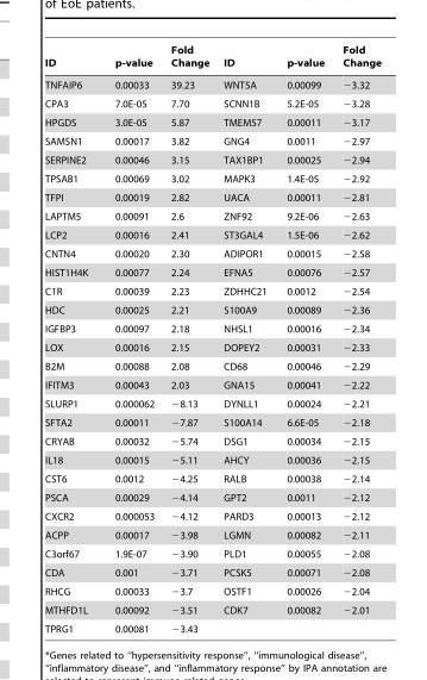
<table><thead><tr><td>ID</td><td>p-value</td><td>Fold Change</td><td>ID</td><td>p-value</td><td>Fold Change</td></tr></thead><tbody><tr><td>TNFAIP6</td><td>0.00033</td><td>39.23</td><td>WNT5A</td><td>0.00099</td><td>−3.32</td></tr><tr><td>CPA3</td><td>7.0E-05</td><td>7.70</td><td>SCNN1B</td><td>5.2E-05</td><td>−3.28</td></tr><tr><td>HPGDS</td><td>3.0E-05</td><td>5.87</td><td>TMEM57</td><td>0.00011</td><td>−3.17</td></tr><tr><td>SAMSN1</td><td>0.00017</td><td>3.82</td><td>GNG4</td><td>0.0011</td><td>−2.97</td></tr><tr><td>SERPINE2</td><td>0.00046</td><td>3.15</td><td>TAX1BP1</td><td>0.00025</td><td>−2.94</td></tr><tr><td>TPSAB1</td><td>0.00069</td><td>3.02</td><td>MAPK3</td><td>1.4E-05</td><td>−2.92</td></tr><tr><td>TFPI</td><td>0.00019</td><td>2.82</td><td>UACA</td><td>0.00011</td><td>−2.81</td></tr><tr><td>LAPTM5</td><td>0.00091</td><td>2.6</td><td>ZNF92</td><td>9.2E-06</td><td>−2.63</td></tr><tr><td>LCP2</td><td>0.00016</td><td>2.41</td><td>ST3GAL4</td><td>1.5E-06</td><td>−2.62</td></tr><tr><td>CNTN4</td><td>0.00020</td><td>2.30</td><td>ADIPOR1</td><td>0.00015</td><td>−2.58</td></tr><tr><td>HIST1H4K</td><td>0.00077</td><td>2.24</td><td>EFNA5</td><td>0.00076</td><td>−2.57</td></tr><tr><td>C1R</td><td>0.00039</td><td>2.23</td><td>ZDHHC21</td><td>0.0012</td><td>−2.54</td></tr><tr><td>HDC</td><td>0.00025</td><td>2.21</td><td>S100A9</td><td>0.00089</td><td>−2.36</td></tr><tr><td>IGFBP3</td><td>0.00097</td><td>2.18</td><td>NHSL1</td><td>0.00016</td><td>−2.34</td></tr><tr><td>LOX</td><td>0.00016</td><td>2.15</td><td>DOPEY2</td><td>0.00031</td><td>−2.33</td></tr><tr><td>B2M</td><td>0.00088</td><td>2.08</td><td>CD68</td><td>0.00046</td><td>−2.29</td></tr><tr><td>IFITM3</td><td>0.00043</td><td>2.03</td><td>GNA15</td><td>0.00041</td><td>−2.22</td></tr><tr><td>SLURP1</td><td>0.000062</td><td>−8.13</td><td>DYNLL1</td><td>0.00024</td><td>−2.21</td></tr><tr><td>SFTA2</td><td>0.00011</td><td>−7.87</td><td>S100A14</td><td>6.6E-05</td><td>−2.18</td></tr><tr><td>CRYAB</td><td>0.00032</td><td>−5.74</td><td>DSG1</td><td>0.00034</td><td>−2.15</td></tr><tr><td>IL18</td><td>0.00015</td><td>−5.11</td><td>AHCY</td><td>0.00036</td><td>−2.15</td></tr><tr><td>CST6</td><td>0.0012</td><td>−4.25</td><td>RALB</td><td>0.00038</td><td>−2.14</td></tr><tr><td>PSCA</td><td>0.00029</td><td>−4.14</td><td>GPT2</td><td>0.0011</td><td>−2.12</td></tr><tr><td>CXCR2</td><td>0.000053</td><td>−4.12</td><td>PARD3</td><td>0.00013</td><td>−2.12</td></tr><tr><td>ACPP</td><td>0.00017</td><td>−3.98</td><td>LGMN</td><td>0.00082</td><td>−2.11</td></tr><tr><td>C3orf67</td><td>1.9E-07</td><td>−3.90</td><td>PLD1</td><td>0.00055</td><td>−2.08</td></tr><tr><td>CDA</td><td>0.001</td><td>−3.71</td><td>PCSK5</td><td>0.00071</td><td>−2.08</td></tr><tr><td>RHCG</td><td>0.00033</td><td>−3.7</td><td>OSTF1</td><td>0.00026</td><td>−2.04</td></tr><tr><td>MTHFD1L</td><td>0.00092</td><td>−3.51</td><td>CDK7</td><td>0.00082</td><td>−2.01</td></tr><tr><td>TPRG1</td><td>0.00081</td><td>−3.43</td><td></td><td></td><td></td></tr></tbody></table>